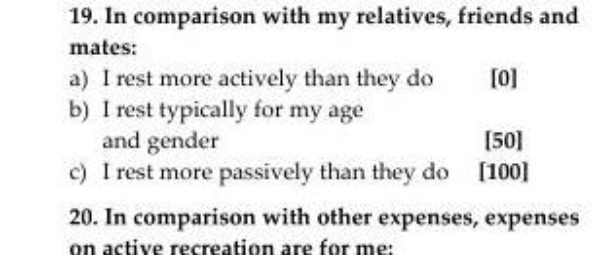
<table><tbody><tr><td>a) I rest more actively than they do</td><td>[0]</td></tr><tr><td>b) I rest typically for my age and gender</td><td>[50]</td></tr><tr><td>c) I rest more passively than they do</td><td>[100]</td></tr></tbody></table>